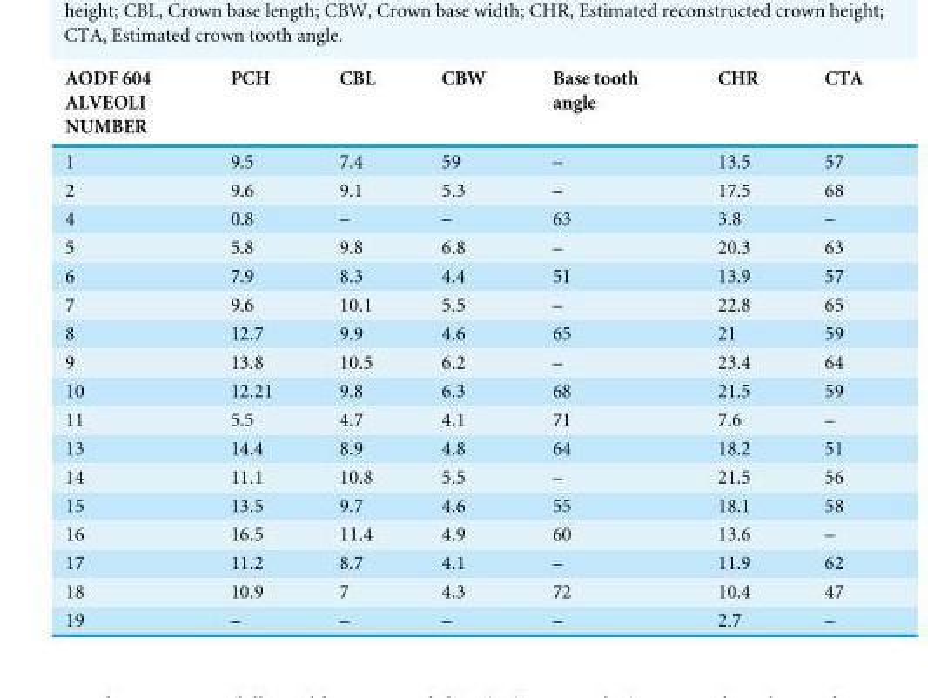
<table><thead><tr><td>AODF 604 ALVEOLI NUMBER</td><td>PCH</td><td>CBL</td><td>CBW</td><td>Base tooth angle</td><td>CHR</td><td>CTA</td></tr></thead><tbody><tr><td>1</td><td>9.5</td><td>7.4</td><td>59</td><td>–</td><td>13.5</td><td>57</td></tr><tr><td>2</td><td>9.6</td><td>9.1</td><td>5.3</td><td>–</td><td>17.5</td><td>68</td></tr><tr><td>4</td><td>0.8</td><td>–</td><td>–</td><td>63</td><td>3.8</td><td>–</td></tr><tr><td>5</td><td>5.8</td><td>9.8</td><td>6.8</td><td>–</td><td>20.3</td><td>63</td></tr><tr><td>6</td><td>7.9</td><td>8.3</td><td>4.4</td><td>51</td><td>13.9</td><td>57</td></tr><tr><td>7</td><td>9.6</td><td>10.1</td><td>5.5</td><td>–</td><td>22.8</td><td>65</td></tr><tr><td>8</td><td>12.7</td><td>9.9</td><td>4.6</td><td>65</td><td>21</td><td>59</td></tr><tr><td>9</td><td>13.8</td><td>10.5</td><td>6.2</td><td>–</td><td>23.4</td><td>64</td></tr><tr><td>10</td><td>12.21</td><td>9.8</td><td>6.3</td><td>68</td><td>21.5</td><td>59</td></tr><tr><td>11</td><td>5.5</td><td>4.7</td><td>4.1</td><td>71</td><td>7.6</td><td>–</td></tr><tr><td>13</td><td>14.4</td><td>8.9</td><td>4.8</td><td>64</td><td>18.2</td><td>51</td></tr><tr><td>14</td><td>11.1</td><td>10.8</td><td>5.5</td><td>–</td><td>21.5</td><td>56</td></tr><tr><td>15</td><td>13.5</td><td>9.7</td><td>4.6</td><td>55</td><td>18.1</td><td>58</td></tr><tr><td>16</td><td>16.5</td><td>11.4</td><td>4.9</td><td>60</td><td>13.6</td><td>–</td></tr><tr><td>17</td><td>11.2</td><td>8.7</td><td>4.1</td><td>–</td><td>11.9</td><td>62</td></tr><tr><td>18</td><td>10.9</td><td>7</td><td>4.3</td><td>72</td><td>10.4</td><td>47</td></tr><tr><td>19</td><td>–</td><td>–</td><td>–</td><td>–</td><td>2.7</td><td>–</td></tr></tbody></table>